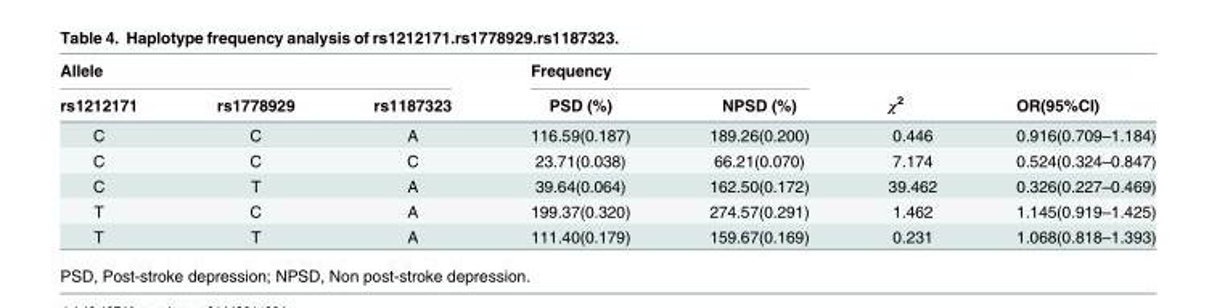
<table><thead><tr><td colspan="3">Allele</td><td colspan="2">Frequency</td><td rowspan="2">χ<sup>2</sup></td><td rowspan="2">OR(95%CI)</td></tr><tr><td>rs1212171</td><td>rs1778929</td><td>rs1187323</td><td>PSD (%)</td><td>NPSD (%)</td></tr></thead><tbody><tr><td>C</td><td>C</td><td>A</td><td>116.59(0.187)</td><td>189.26(0.200)</td><td>0.446</td><td>0.916(0.709–1.184)</td></tr><tr><td>C</td><td>C</td><td>C</td><td>23.71(0.038)</td><td>66.21(0.070)</td><td>7.174</td><td>0.524(0.324–0.847)</td></tr><tr><td>C</td><td>T</td><td>A</td><td>39.64(0.064)</td><td>162.50(0.172)</td><td>39.462</td><td>0.326(0.227–0.469)</td></tr><tr><td>T</td><td>C</td><td>A</td><td>199.37(0.320)</td><td>274.57(0.291)</td><td>1.462</td><td>1.145(0.919–1.425)</td></tr><tr><td>T</td><td>T</td><td>A</td><td>111.40(0.179)</td><td>159.67(0.169)</td><td>0.231</td><td>1.068(0.818–1.393)</td></tr></tbody></table>